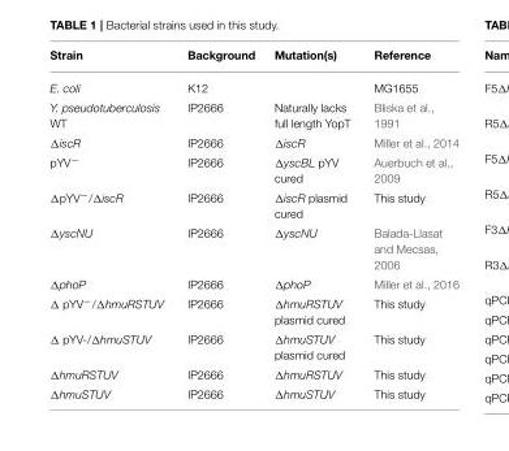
<table><thead><tr><td>Strain</td><td>Background</td><td>Mutation(s)</td><td>Reference</td></tr></thead><tbody><tr><td>E. coli</td><td>K12</td><td></td><td>MG1655</td></tr><tr><td>Y. pseudotuberculosis WT</td><td>IP2666</td><td>Naturally lacks full length YopT</td><td>Bliska et al., 1991</td></tr><tr><td>ΔiscR</td><td>IP2666</td><td>ΔiscR</td><td>Miller et al., 2014</td></tr><tr><td>pYV<sup>−</sup></td><td>IP2666</td><td>ΔyscBL pYV cured</td><td>Auerbuch et al., 2009</td></tr><tr><td>ΔpYV<sup>−</sup>/ΔiscR</td><td>IP2666</td><td>ΔiscR plasmid cured</td><td>This study</td></tr><tr><td>ΔyscNU</td><td>IP2666</td><td>ΔyscNU</td><td>Balada-Llasat and Mecsas, 2006</td></tr><tr><td>ΔphoP</td><td>IP2666</td><td>ΔphoP</td><td>Miller et al., 2016</td></tr><tr><td>Δ pYV<sup>−</sup>/ΔhmuRSTUV</td><td>IP2666</td><td>ΔhmuRSTUV plasmid cured</td><td>This study</td></tr><tr><td>Δ pYV-/ΔhmuSTUV</td><td>IP2666</td><td>ΔhmuSTUV plasmid cured</td><td>This study</td></tr><tr><td>ΔhmuRSTUV</td><td>IP2666</td><td>ΔhmuRSTUV</td><td>This study</td></tr><tr><td>ΔhmuSTUV</td><td>IP2666</td><td>ΔhmuSTUV</td><td>This study</td></tr></tbody></table>